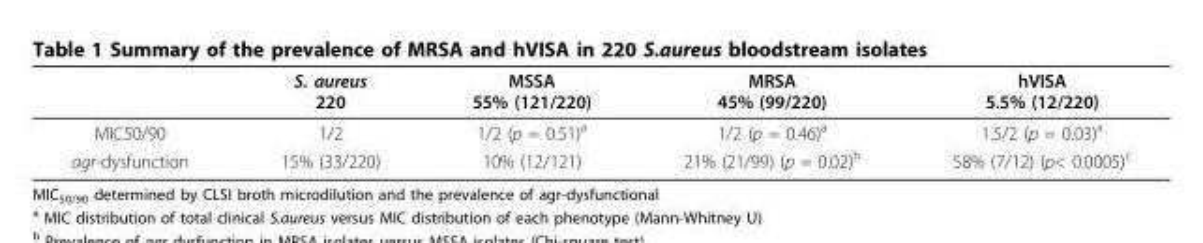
<table><thead><tr><td></td><td>S. aureus 220</td><td>MSSA 55% (121/220)</td><td>MRSA 45% (99/220)</td><td>hVISA 5.5% (12/220)</td></tr></thead><tbody><tr><td>MIC50/90</td><td>1/2</td><td>1/2 (p = 0.51)<sup>a</sup></td><td>1/2 (p = 0.46)<sup>a</sup></td><td>1.5/2 (p = 0.03)<sup>a</sup></td></tr><tr><td>agr-dysfunction</td><td>15% (33/220)</td><td>10% (12/121)</td><td>21% (21/99) (p = 0.02)<sup>b</sup></td><td>58% (7/12) (p&lt; 0.0005)<sup>c</sup></td></tr></tbody></table>